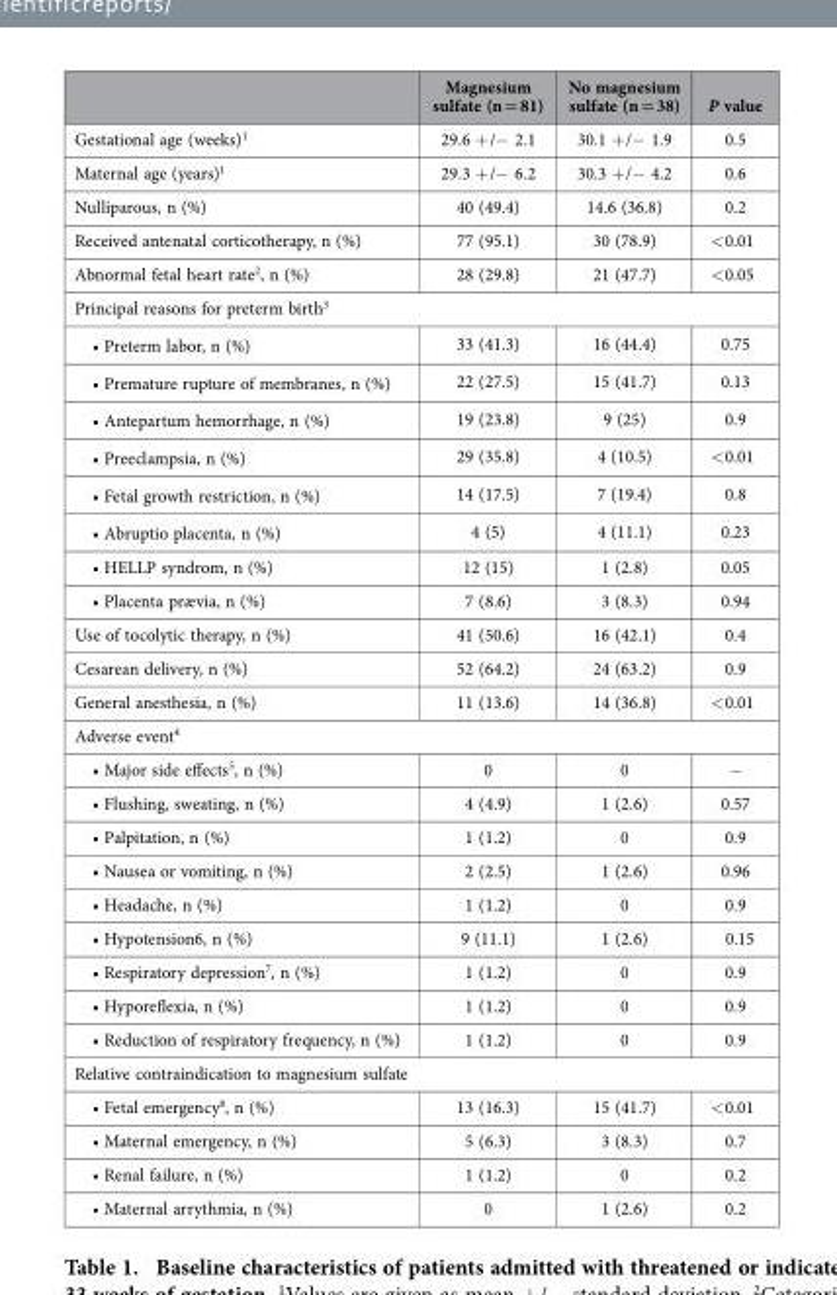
<table><thead><tr><td></td><td>Magnesium sulfate (n = 81)</td><td>No magnesium sulfate (n = 38)</td><td>P value</td></tr></thead><tbody><tr><td>Gestational age (weeks)<sup>1</sup></td><td>29.6 + /− 2.1</td><td>30.1 + /− 1.9</td><td>0.5</td></tr><tr><td>Maternal age (years)<sup>1</sup></td><td>29.3 + /− 6.2</td><td>30.3 + /− 4.2</td><td>0.6</td></tr><tr><td>Nulliparous, n (%)</td><td>40 (49.4)</td><td>14.6 (36.8)</td><td>0.2</td></tr><tr><td>Received antenatal corticotherapy, n (%)</td><td>77 (95.1)</td><td>30 (78.9)</td><td>&lt; 0.01</td></tr><tr><td>Abnormal fetal heart rate<sup>2</sup>, n (%)</td><td>28 (29.8)</td><td>21 (47.7)</td><td>&lt; 0.05</td></tr><tr><td colspan="4">Principal reasons for preterm birth<sup>3</sup></td></tr><tr><td>• Preterm labor, n (%)</td><td>33 (41.3)</td><td>16 (44.4)</td><td>0.75</td></tr><tr><td>• Premature rupture of membranes, n (%)</td><td>22 (27.5)</td><td>15 (41.7)</td><td>0.13</td></tr><tr><td>• Antepartum hemorrhage, n (%)</td><td>19 (23.8)</td><td>9 (25)</td><td>0.9</td></tr><tr><td>• Preeclampsia, n (%)</td><td>29 (35.8)</td><td>4 (10.5)</td><td>&lt; 0.01</td></tr><tr><td>• Fetal growth restriction, n (%)</td><td>14 (17.5)</td><td>7 (19.4)</td><td>0.8</td></tr><tr><td>• Abruptio placenta, n (%)</td><td>4 (5)</td><td>4 (11.1)</td><td>0.23</td></tr><tr><td>• HELLP syndrom, n (%)</td><td>12 (15)</td><td>1 (2.8)</td><td>0.05</td></tr><tr><td>• Placenta prævia, n (%)</td><td>7 (8.6)</td><td>3 (8.3)</td><td>0.94</td></tr><tr><td>Use of tocolytic therapy, n (%)</td><td>41 (50.6)</td><td>16 (42.1)</td><td>0.4</td></tr><tr><td>Cesarean delivery, n (%)</td><td>52 (64.2)</td><td>24 (63.2)</td><td>0.9</td></tr><tr><td>General anesthesia, n (%)</td><td>11 (13.6)</td><td>14 (36.8)</td><td>&lt; 0.01</td></tr><tr><td colspan="4">Adverse event<sup>4</sup></td></tr><tr><td>• Major side effects<sup>5</sup>, n (%)</td><td>0</td><td>0</td><td>−</td></tr><tr><td>• Flushing, sweating, n (%)</td><td>4 (4.9)</td><td>1 (2.6)</td><td>0.57</td></tr><tr><td>• Palpitation, n (%)</td><td>1 (1.2)</td><td>0</td><td>0.9</td></tr><tr><td>• Nausea or vomiting, n (%)</td><td>2 (2.5)</td><td>1 (2.6)</td><td>0.96</td></tr><tr><td>• Headache, n (%)</td><td>1 (1.2)</td><td>0</td><td>0.9</td></tr><tr><td>• Hypotension<sup>6</sup>, n (%)</td><td>9 (11.1)</td><td>1 (2.6)</td><td>0.15</td></tr><tr><td>• Respiratory depression<sup>7</sup>, n (%)</td><td>1 (1.2)</td><td>0</td><td>0.9</td></tr><tr><td>• Hyporeflexia, n (%)</td><td>1 (1.2)</td><td>0</td><td>0.9</td></tr><tr><td>• Reduction of respiratory frequency, n (%)</td><td>1 (1.2)</td><td>0</td><td>0.9</td></tr><tr><td colspan="4">Relative contraindication to magnesium sulfate</td></tr><tr><td>• Fetal emergency<sup>8</sup>, n (%)</td><td>13 (16.3)</td><td>15 (41.7)</td><td>&lt; 0.01</td></tr><tr><td>• Maternal emergency, n (%)</td><td>5 (6.3)</td><td>3 (8.3)</td><td>0.7</td></tr><tr><td>• Renal failure, n (%)</td><td>1 (1.2)</td><td>0</td><td>0.2</td></tr><tr><td>• Maternal arrythmia, n (%)</td><td>0</td><td>1 (2.6)</td><td>0.2</td></tr></tbody></table>